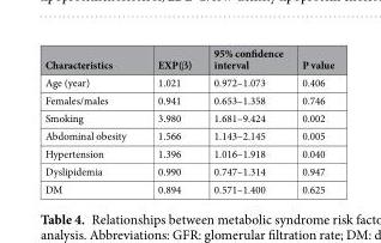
<table><thead><tr><td>Characteristics</td><td>EXP(β)</td><td>95% confidence interval</td><td>P value</td></tr></thead><tbody><tr><td>Age (year)</td><td>1.021</td><td>0.972–1.073</td><td>0.406</td></tr><tr><td>Females/males</td><td>0.941</td><td>0.653–1.358</td><td>0.746</td></tr><tr><td>Smoking</td><td>3.980</td><td>1.681–9.424</td><td>0.002</td></tr><tr><td>Abdominal obesity</td><td>1.566</td><td>1.143–2.145</td><td>0.005</td></tr><tr><td>Hypertension</td><td>1.396</td><td>1.016–1.918</td><td>0.040</td></tr><tr><td>Dyslipidemia</td><td>0.990</td><td>0.747–1.314</td><td>0.947</td></tr><tr><td>DM</td><td>0.894</td><td>0.571–1.400</td><td>0.625</td></tr></tbody></table>